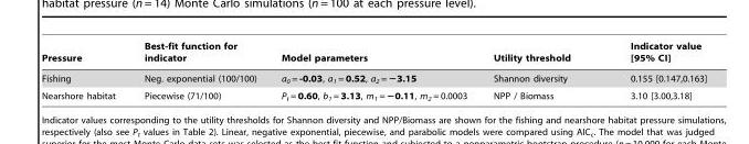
<table><thead><tr><td>Pressure</td><td>Best-fit function for indicator</td><td>Model parameters</td><td>Utility threshold</td><td>Indicator value [95% CI]</td></tr></thead><tbody><tr><td>Fishing</td><td>Neg. exponential (100/100)</td><td>a<sub>0</sub> = -0.03, a<sub>1</sub> = 0.52, a<sub>2</sub> = −3.15</td><td>Shannon diversity</td><td>0.155 [0.147,0.163]</td></tr><tr><td>Nearshore habitat</td><td>Piecewise (71/100)</td><td>P<sub>t</sub> = 0.60, b<sub>1</sub> = 3.13, m<sub>1</sub> = −0.11, m<sub>2</sub> = 0.0003</td><td>NPP / Biomass</td><td>3.10 [3.00,3.18]</td></tr></tbody></table>